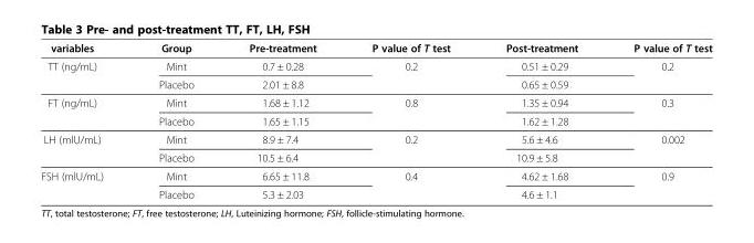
<table><thead><tr><td>variables</td><td>Group</td><td>Pre-treatment</td><td>P value of T test</td><td>Post-treatment</td><td>P value of T test</td></tr></thead><tbody><tr><td rowspan="2">TT (ng/mL)</td><td>Mint</td><td>0.7 ± 0.28</td><td>0.2</td><td>0.51 ± 0.29</td><td>0.2</td></tr><tr><td>Placebo</td><td>2.01 ± 8.8</td><td></td><td>0.65 ± 0.59</td><td></td></tr><tr><td rowspan="2">FT (ng/mL)</td><td>Mint</td><td>1.68 ± 1.12</td><td>0.8</td><td>1.35 ± 0.94</td><td>0.3</td></tr><tr><td>Placebo</td><td>1.65 ± 1.15</td><td></td><td>1.62 ± 1.28</td><td></td></tr><tr><td rowspan="2">LH (mlU/mL)</td><td>Mint</td><td>8.9 ± 7.4</td><td>0.2</td><td>5.6 ± 4.6</td><td>0.002</td></tr><tr><td>Placebo</td><td>10.5 ± 6.4</td><td></td><td>10.9 ± 5.8</td><td></td></tr><tr><td rowspan="2">FSH (mlU/mL)</td><td>Mint</td><td>6.65 ± 11.8</td><td>0.4</td><td>4.62 ± 1.68</td><td>0.9</td></tr><tr><td>Placebo</td><td>5.3 ± 2.03</td><td></td><td>4.6 ± 1.1</td><td></td></tr></tbody></table>